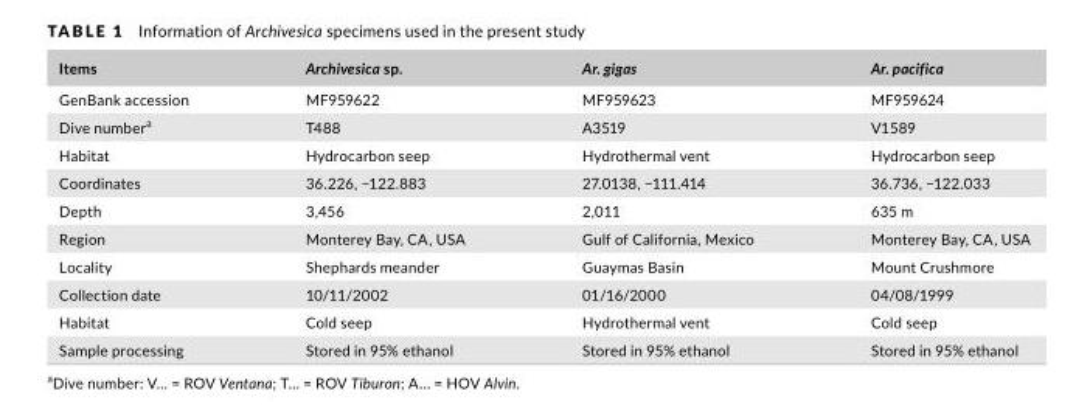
<table><thead><tr><td>Items</td><td>Archivesica sp.</td><td>Ar. gigas</td><td>Ar. pacifica</td></tr></thead><tbody><tr><td>GenBank accession</td><td>MF959622</td><td>MF959623</td><td>MF959624</td></tr><tr><td>Dive number<sup>a</sup></td><td>T488</td><td>A3519</td><td>V1589</td></tr><tr><td>Habitat</td><td>Hydrocarbon seep</td><td>Hydrothermal vent</td><td>Hydrocarbon seep</td></tr><tr><td>Coordinates</td><td>36.226, −122.883</td><td>27.0138, −111.414</td><td>36.736, −122.033</td></tr><tr><td>Depth</td><td>3,456</td><td>2,011</td><td>635 m</td></tr><tr><td>Region</td><td>Monterey Bay, CA, USA</td><td>Gulf of California, Mexico</td><td>Monterey Bay, CA, USA</td></tr><tr><td>Locality</td><td>Shephards meander</td><td>Guaymas Basin</td><td>Mount Crushmore</td></tr><tr><td>Collection date</td><td>10/11/2002</td><td>01/16/2000</td><td>04/08/1999</td></tr><tr><td>Habitat</td><td>Cold seep</td><td>Hydrothermal vent</td><td>Cold seep</td></tr><tr><td>Sample processing</td><td>Stored in 95% ethanol</td><td>Stored in 95% ethanol</td><td>Stored in 95% ethanol</td></tr></tbody></table>